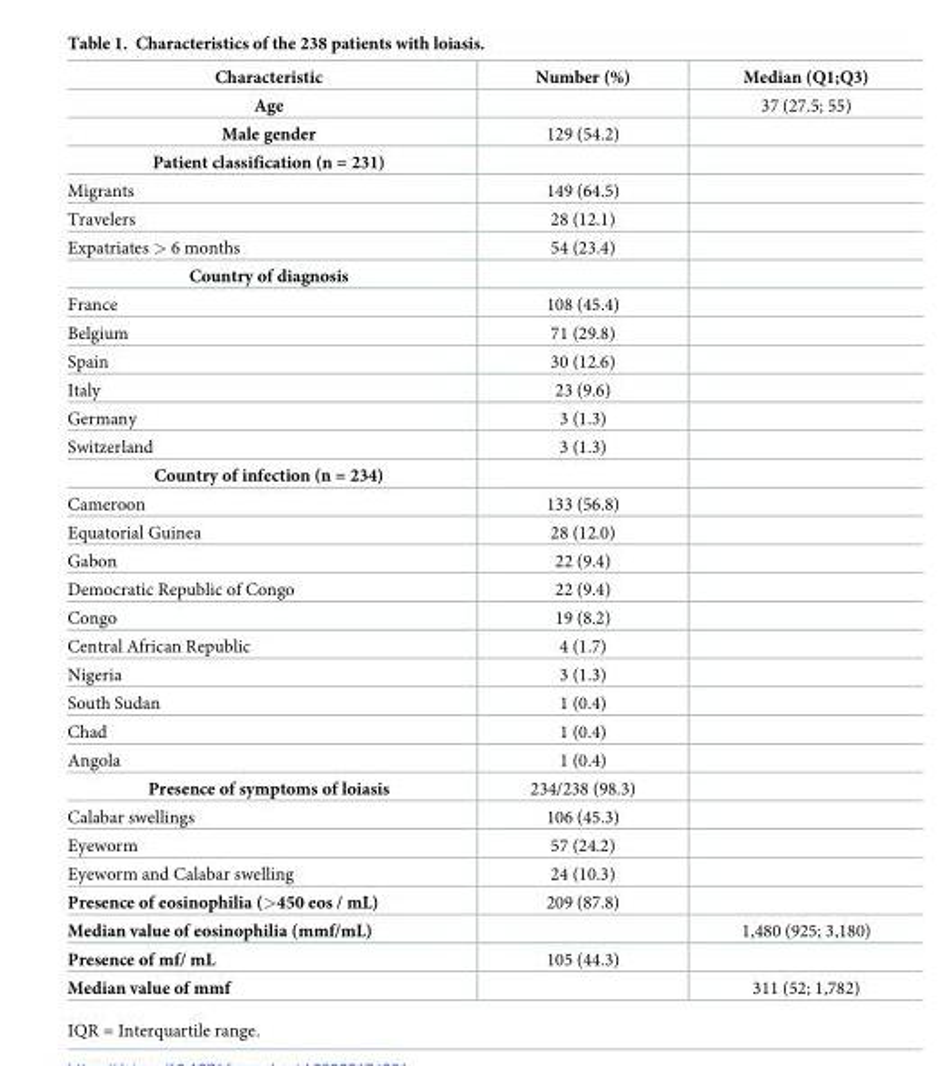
<table><thead><tr><td>Characteristic</td><td>Number (%)</td><td>Median (Q1;Q3)</td></tr></thead><tbody><tr><td>Age</td><td></td><td>37 (27.5; 55)</td></tr><tr><td>Male gender</td><td>129 (54.2)</td><td></td></tr><tr><td colspan="3">Patient classification (n = 231)</td></tr><tr><td>Migrants</td><td>149 (64.5)</td><td></td></tr><tr><td>Travelers</td><td>28 (12.1)</td><td></td></tr><tr><td>Expatriates &gt; 6 months</td><td>54 (23.4)</td><td></td></tr><tr><td colspan="3">Country of diagnosis</td></tr><tr><td>France</td><td>108 (45.4)</td><td></td></tr><tr><td>Belgium</td><td>71 (29.8)</td><td></td></tr><tr><td>Spain</td><td>30 (12.6)</td><td></td></tr><tr><td>Italy</td><td>23 (9.6)</td><td></td></tr><tr><td>Germany</td><td>3 (1.3)</td><td></td></tr><tr><td>Switzerland</td><td>3 (1.3)</td><td></td></tr><tr><td colspan="3">Country of infection (n = 234)</td></tr><tr><td>Cameroon</td><td>133 (56.8)</td><td></td></tr><tr><td>Equatorial Guinea</td><td>28 (12.0)</td><td></td></tr><tr><td>Gabon</td><td>22 (9.4)</td><td></td></tr><tr><td>Democratic Republic of Congo</td><td>22 (9.4)</td><td></td></tr><tr><td>Congo</td><td>19 (8.2)</td><td></td></tr><tr><td>Central African Republic</td><td>4 (1.7)</td><td></td></tr><tr><td>Nigeria</td><td>3 (1.3)</td><td></td></tr><tr><td>South Sudan</td><td>1 (0.4)</td><td></td></tr><tr><td>Chad</td><td>1 (0.4)</td><td></td></tr><tr><td>Angola</td><td>1 (0.4)</td><td></td></tr><tr><td>Presence of symptoms of loiasis</td><td>234/238 (98.3)</td><td></td></tr><tr><td>Calabar swellings</td><td>106 (45.3)</td><td></td></tr><tr><td>Eyeworm</td><td>57 (24.2)</td><td></td></tr><tr><td>Eyeworm and Calabar swelling</td><td>24 (10.3)</td><td></td></tr><tr><td>Presence of eosinophilia (&gt;450 eos / mL)</td><td>209 (87.8)</td><td></td></tr><tr><td>Median value of eosinophilia (mmf/mL)</td><td></td><td>1,480 (925; 3,180)</td></tr><tr><td>Presence of mf/ mL</td><td>105 (44.3)</td><td></td></tr><tr><td>Median value of mmf</td><td></td><td>311 (52; 1,782)</td></tr></tbody></table>